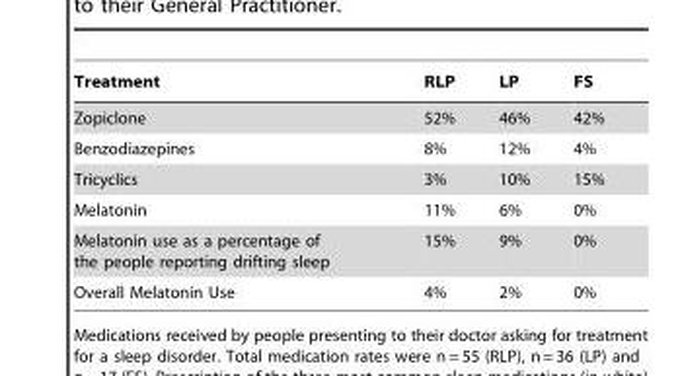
<table><thead><tr><td>Treatment</td><td>RLP</td><td>LP</td><td>FS</td></tr></thead><tbody><tr><td>Zopiclone</td><td>52%</td><td>46%</td><td>42%</td></tr><tr><td>Benzodiazepines</td><td>8%</td><td>12%</td><td>4%</td></tr><tr><td>Tricyclics</td><td>3%</td><td>10%</td><td>15%</td></tr><tr><td>Melatonin</td><td>11%</td><td>6%</td><td>0%</td></tr><tr><td>Melatonin use as a percentage of the people reporting drifting sleep</td><td>15%</td><td>9%</td><td>0%</td></tr><tr><td>Overall Melatonin Use</td><td>4%</td><td>2%</td><td>0%</td></tr></tbody></table>